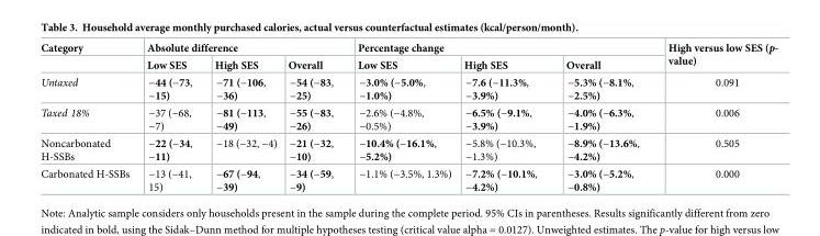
<table><thead><tr><td rowspan="2">Category</td><td colspan="3">Absolute difference</td><td colspan="3">Percentage change</td><td rowspan="2">High versus low SES (p- value)</td></tr><tr><td>Low SES</td><td>High SES</td><td>Overall</td><td>Low SES</td><td>High SES</td><td>Overall</td></tr></thead><tbody><tr><td>Untaxed</td><td>−44 (−73, −15)</td><td>−71 (−106, −36)</td><td>−54 (−83, −25)</td><td>−3.0% (−5.0%, −1.0%)</td><td>−7.6 (−11.3%, −3.9%)</td><td>−5.3% (−8.1%, −2.5%)</td><td>0.091</td></tr><tr><td>Taxed 18%</td><td>−37 (−68, −7)</td><td>−81 (−113, −49)</td><td>−55 (−83, −26)</td><td>−2.6% (−4.8%, −0.5%)</td><td>−6.5% (−9.1%, −3.9%)</td><td>−4.0% (−6.3%, −1.9%)</td><td>0.006</td></tr><tr><td>Noncarbonated H-SSBs</td><td>−22 (−34, −11)</td><td>−18 (−32, −4)</td><td>−21 (−32, −10)</td><td>−10.4% (−16.1%, −5.2%)</td><td>−5.8% (−10.3%, −1.3%)</td><td>−8.9% (−13.6%, −4.2%)</td><td>0.505</td></tr><tr><td>Carbonated H-SSBs</td><td>−13 (−41, 15)</td><td>−67 (−94, −39)</td><td>−34 (−59, −9)</td><td>−1.1% (−3.5%, 1.3%)</td><td>−7.2% (−10.1%, −4.2%)</td><td>−3.0% (−5.2%, −0.8%)</td><td>0.000</td></tr></tbody></table>